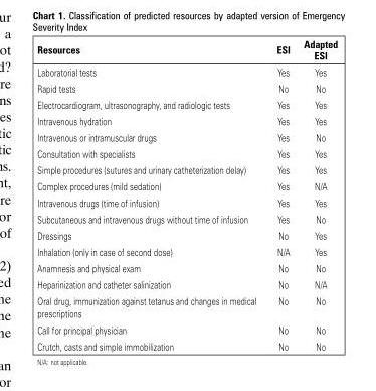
<table><thead><tr><td>Resources</td><td>ESI</td><td>Adapted ESI</td></tr></thead><tbody><tr><td>Laboratorial tests</td><td>Yes</td><td>Yes</td></tr><tr><td>Rapid tests</td><td>No</td><td>No</td></tr><tr><td>Electrocardiogram, ultrasonography, and radiologic tests</td><td>Yes</td><td>Yes</td></tr><tr><td>Intravenous hydration</td><td>Yes</td><td>Yes</td></tr><tr><td>Intravenous or intramuscular drugs</td><td>Yes</td><td>No</td></tr><tr><td>Consultation with specialists</td><td>Yes</td><td>Yes</td></tr><tr><td>Simple procedures (sutures and urinary catheterization delay)</td><td>Yes</td><td>Yes</td></tr><tr><td>Complex procedures (mild sedation)</td><td>Yes</td><td>N/A</td></tr><tr><td>Intravenous drugs (time of infusion)</td><td>Yes</td><td>Yes</td></tr><tr><td>Subcutaneous and intravenous drugs without time of infusion</td><td>Yes</td><td>No</td></tr><tr><td>Dressings</td><td>No</td><td>Yes</td></tr><tr><td>Inhalation (only in case of second dose)</td><td>N/A</td><td>Yes</td></tr><tr><td>Anamnesis and physical exam</td><td>No</td><td>No</td></tr><tr><td>Heparinization and catheter salinization</td><td>No</td><td>N/A</td></tr><tr><td>Oral drug, immunization against tetanus and changes in medical prescriptions</td><td>No</td><td>No</td></tr><tr><td>Call for principal physician</td><td>No</td><td>No</td></tr><tr><td>Crutch, casts and simple immobilization</td><td>No</td><td>No</td></tr></tbody></table>